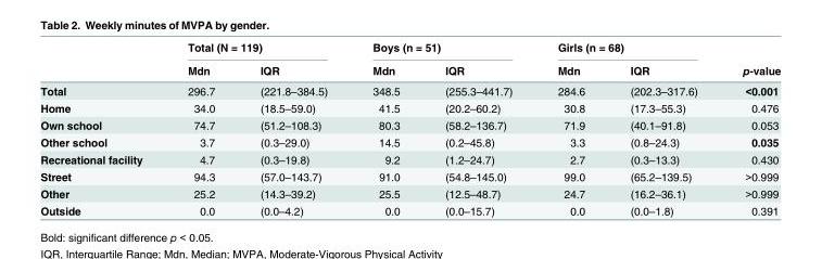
<table><thead><tr><td rowspan="2"></td><td colspan="2">Total (N = 119)</td><td colspan="2">Boys (n = 51)</td><td colspan="2">Girls (n = 68)</td><td rowspan="2">p-value</td></tr><tr><td>Mdn</td><td>IQR</td><td>Mdn</td><td>IQR</td><td>Mdn</td><td>IQR</td></tr></thead><tbody><tr><td>Total</td><td>296.7</td><td>(221.8–384.5)</td><td>348.5</td><td>(255.3–441.7)</td><td>284.6</td><td>(202.3–317.6)</td><td>&lt;0.001</td></tr><tr><td>Home</td><td>34.0</td><td>(18.5–59.0)</td><td>41.5</td><td>(20.2–60.2)</td><td>30.8</td><td>(17.3–55.3)</td><td>0.476</td></tr><tr><td>Own school</td><td>74.7</td><td>(51.2–108.3)</td><td>80.3</td><td>(58.2–136.7)</td><td>71.9</td><td>(40.1–91.8)</td><td>0.053</td></tr><tr><td>Other school</td><td>3.7</td><td>(0.3–29.0)</td><td>14.5</td><td>(0.2–45.8)</td><td>3.3</td><td>(0.8–24.3)</td><td>0.035</td></tr><tr><td>Recreational facility</td><td>4.7</td><td>(0.3–19.8)</td><td>9.2</td><td>(1.2–24.7)</td><td>2.7</td><td>(0.3–13.3)</td><td>0.430</td></tr><tr><td>Street</td><td>94.3</td><td>(57.0–143.7)</td><td>91.0</td><td>(54.8–145.0)</td><td>99.0</td><td>(65.2–139.5)</td><td>&gt;0.999</td></tr><tr><td>Other</td><td>25.2</td><td>(14.3–39.2)</td><td>25.5</td><td>(12.5–48.7)</td><td>24.7</td><td>(16.2–36.1)</td><td>&gt;0.999</td></tr><tr><td>Outside</td><td>0.0</td><td>(0.0–4.2)</td><td>0.0</td><td>(0.0–15.7)</td><td>0.0</td><td>(0.0–1.8)</td><td>0.391</td></tr></tbody></table>